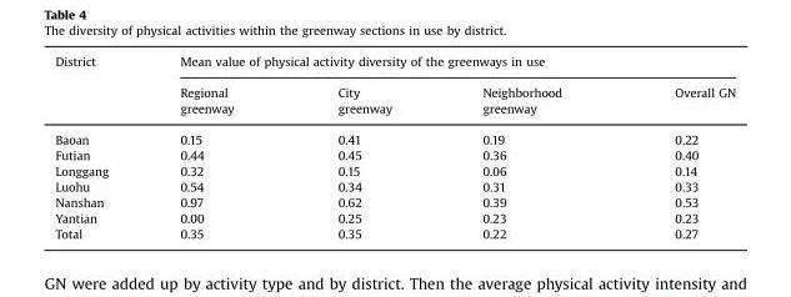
<table><thead><tr><td rowspan="2">District</td><td colspan="4">Mean value of physical activity diversity of the greenways in use</td></tr><tr><td>Regional greenway</td><td>City greenway</td><td>Neighborhood greenway</td><td>Overall GN</td></tr></thead><tbody><tr><td>Baoan</td><td>0.15</td><td>0.41</td><td>0.19</td><td>0.22</td></tr><tr><td>Futian</td><td>0.44</td><td>0.45</td><td>0.36</td><td>0.40</td></tr><tr><td>Longgang</td><td>0.32</td><td>0.15</td><td>0.06</td><td>0.14</td></tr><tr><td>Luohu</td><td>0.54</td><td>0.34</td><td>0.31</td><td>0.33</td></tr><tr><td>Nanshan</td><td>0.97</td><td>0.62</td><td>0.39</td><td>0.53</td></tr><tr><td>Yantian</td><td>0.00</td><td>0.25</td><td>0.23</td><td>0.23</td></tr><tr><td>Total</td><td>0.35</td><td>0.35</td><td>0.22</td><td>0.27</td></tr></tbody></table>